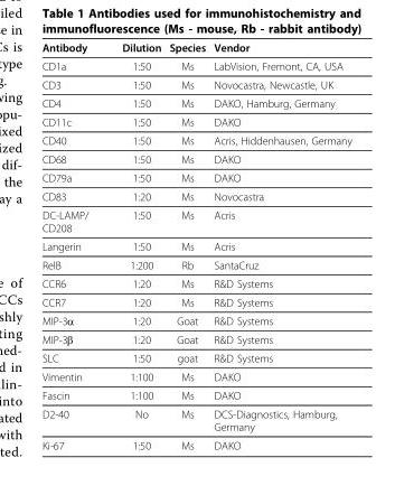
<table><thead><tr><td>Antibody</td><td>Dilution</td><td>Species</td><td>Vendor</td></tr></thead><tbody><tr><td>CD1a</td><td>1:50</td><td>Ms</td><td>LabVision, Fremont, CA, USA</td></tr><tr><td>CD3</td><td>1:50</td><td>Ms</td><td>Novocastra, Newcastle, UK</td></tr><tr><td>CD4</td><td>1:50</td><td>Ms</td><td>DAKO, Hamburg, Germany</td></tr><tr><td>CD11c</td><td>1:50</td><td>Ms</td><td>DAKO</td></tr><tr><td>CD40</td><td>1:50</td><td>Ms</td><td>Acris, Hiddenhausen, Germany</td></tr><tr><td>CD68</td><td>1:50</td><td>Ms</td><td>DAKO</td></tr><tr><td>CD79a</td><td>1:50</td><td>Ms</td><td>DAKO</td></tr><tr><td>CD83</td><td>1:20</td><td>Ms</td><td>Novocastra</td></tr><tr><td>DC-LAMP/ CD208</td><td>1:50</td><td>Ms</td><td>Acris</td></tr><tr><td>Langerin</td><td>1:50</td><td>Ms</td><td>Acris</td></tr><tr><td>RelB</td><td>1:200</td><td>Rb</td><td>SantaCruz</td></tr><tr><td>CCR6</td><td>1:20</td><td>Ms</td><td>R&amp;D Systems</td></tr><tr><td>CCR7</td><td>1:20</td><td>Ms</td><td>R&amp;D Systems</td></tr><tr><td>MIP-3α</td><td>1:20</td><td>Goat</td><td>R&amp;D Systems</td></tr><tr><td>MIP-3β</td><td>1:20</td><td>Goat</td><td>R&amp;D Systems</td></tr><tr><td>SLC</td><td>1:50</td><td>goat</td><td>R&amp;D Systems</td></tr><tr><td>Vimentin</td><td>1:100</td><td>Ms</td><td>DAKO</td></tr><tr><td>Fascin</td><td>1:100</td><td>Ms</td><td>DAKO</td></tr><tr><td>D2-40</td><td>No</td><td>Ms</td><td>DCS-Diagnostics, Hamburg, Germany</td></tr><tr><td>Ki-67</td><td>1:50</td><td>Ms</td><td>DAKO</td></tr></tbody></table>